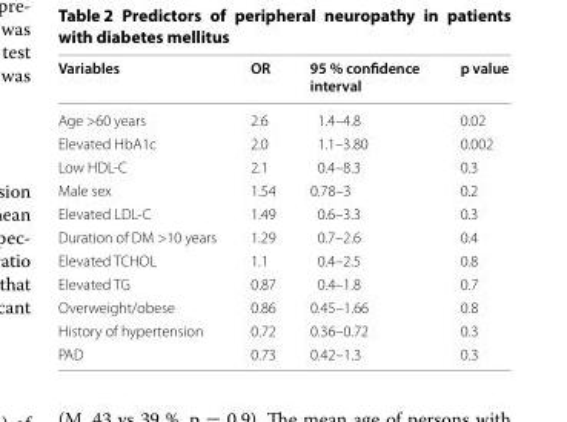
<table><thead><tr><td>Variables</td><td>OR</td><td>95 % confidence interval</td><td>p value</td></tr></thead><tbody><tr><td>Age &gt;60 years</td><td>2.6</td><td>1.4–4.8</td><td>0.02</td></tr><tr><td>Elevated HbA1c</td><td>2.0</td><td>1.1–3.80</td><td>0.002</td></tr><tr><td>Low HDL-C</td><td>2.1</td><td>0.4–8.3</td><td>0.3</td></tr><tr><td>Male sex</td><td>1.54</td><td>0.78–3</td><td>0.2</td></tr><tr><td>Elevated LDL-C</td><td>1.49</td><td>0.6–3.3</td><td>0.3</td></tr><tr><td>Duration of DM &gt;10 years</td><td>1.29</td><td>0.7–2.6</td><td>0.4</td></tr><tr><td>Elevated TCHOL</td><td>1.1</td><td>0.4–2.5</td><td>0.8</td></tr><tr><td>Elevated TG</td><td>0.87</td><td>0.4–1.8</td><td>0.7</td></tr><tr><td>Overweight/obese</td><td>0.86</td><td>0.45–1.66</td><td>0.8</td></tr><tr><td>History of hypertension</td><td>0.72</td><td>0.36–0.72</td><td>0.3</td></tr><tr><td>PAD</td><td>0.73</td><td>0.42–1.3</td><td>0.3</td></tr></tbody></table>